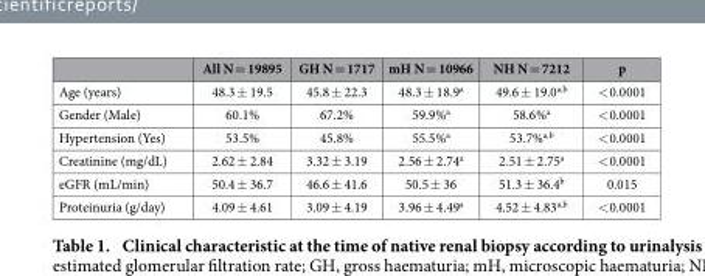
<table><thead><tr><td></td><td>All N = 19895</td><td>GH N = 1717</td><td>mH N = 10966</td><td>NH N = 7212</td><td>p</td></tr></thead><tbody><tr><td>Age (years)</td><td>48.3 ± 19.5</td><td>45.8 ± 22.3</td><td>48.3 ± 18.9<sup>a</sup></td><td>49.6 ± 19.0<sup>a,b</sup></td><td>&lt; 0.0001</td></tr><tr><td>Gender (Male)</td><td>60.1%</td><td>67.2%</td><td>59.9%<sup>a</sup></td><td>58.6%<sup>a</sup></td><td>&lt; 0.0001</td></tr><tr><td>Hypertension (Yes)</td><td>53.5%</td><td>45.8%</td><td>55.5%<sup>a</sup></td><td>53.7%<sup>a,b</sup></td><td>&lt; 0.0001</td></tr><tr><td>Creatinine (mg/dL)</td><td>2.62 ± 2.84</td><td>3.32 ± 3.19</td><td>2.56 ± 2.74<sup>a</sup></td><td>2.51 ± 2.75<sup>a</sup></td><td>&lt; 0.0001</td></tr><tr><td>eGFR (mL/min)</td><td>50.4 ± 36.7</td><td>46.6 ± 41.6</td><td>50.5 ± 36</td><td>51.3 ± 36.4<sup>b</sup></td><td>0.015</td></tr><tr><td>Proteinuria (g/day)</td><td>4.09 ± 4.61</td><td>3.09 ± 4.19</td><td>3.96 ± 4.49<sup>a</sup></td><td>4.52 ± 4.83<sup>a,b</sup></td><td>&lt; 0.0001</td></tr></tbody></table>